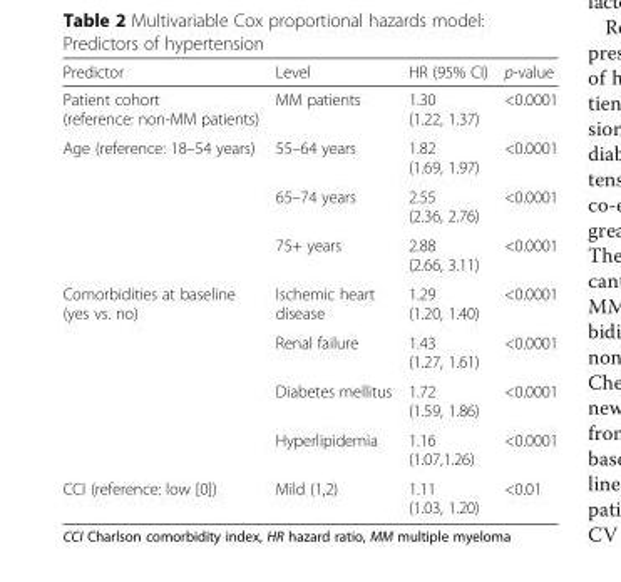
<table><thead><tr><td>Predictor</td><td>Level</td><td>HR (95% CI)</td><td>p-value</td></tr></thead><tbody><tr><td>Patient cohort (reference: non-MM patients)</td><td>MM patients</td><td>1.30 (1.22, 1.37)</td><td>&lt;0.0001</td></tr><tr><td rowspan="3">Age (reference: 18–54 years)</td><td>55–64 years</td><td>1.82 (1.69, 1.97)</td><td>&lt;0.0001</td></tr><tr><td>65–74 years</td><td>2.55 (2.36, 2.76)</td><td>&lt;0.0001</td></tr><tr><td>75+ years</td><td>2.88 (2.66, 3.11)</td><td>&lt;0.0001</td></tr><tr><td rowspan="4">Comorbidities at baseline (yes vs. no)</td><td>Ischemic heart disease</td><td>1.29 (1.20, 1.40)</td><td>&lt;0.0001</td></tr><tr><td>Renal failure</td><td>1.43 (1.27, 1.61)</td><td>&lt;0.0001</td></tr><tr><td>Diabetes mellitus</td><td>1.72 (1.59, 1.86)</td><td>&lt;0.0001</td></tr><tr><td>Hyperlipidemia</td><td>1.16 (1.07,1.26)</td><td>&lt;0.0001</td></tr><tr><td>CCI (reference: low [0])</td><td>Mild (1,2)</td><td>1.11 (1.03, 1.20)</td><td>&lt;0.01</td></tr></tbody></table>